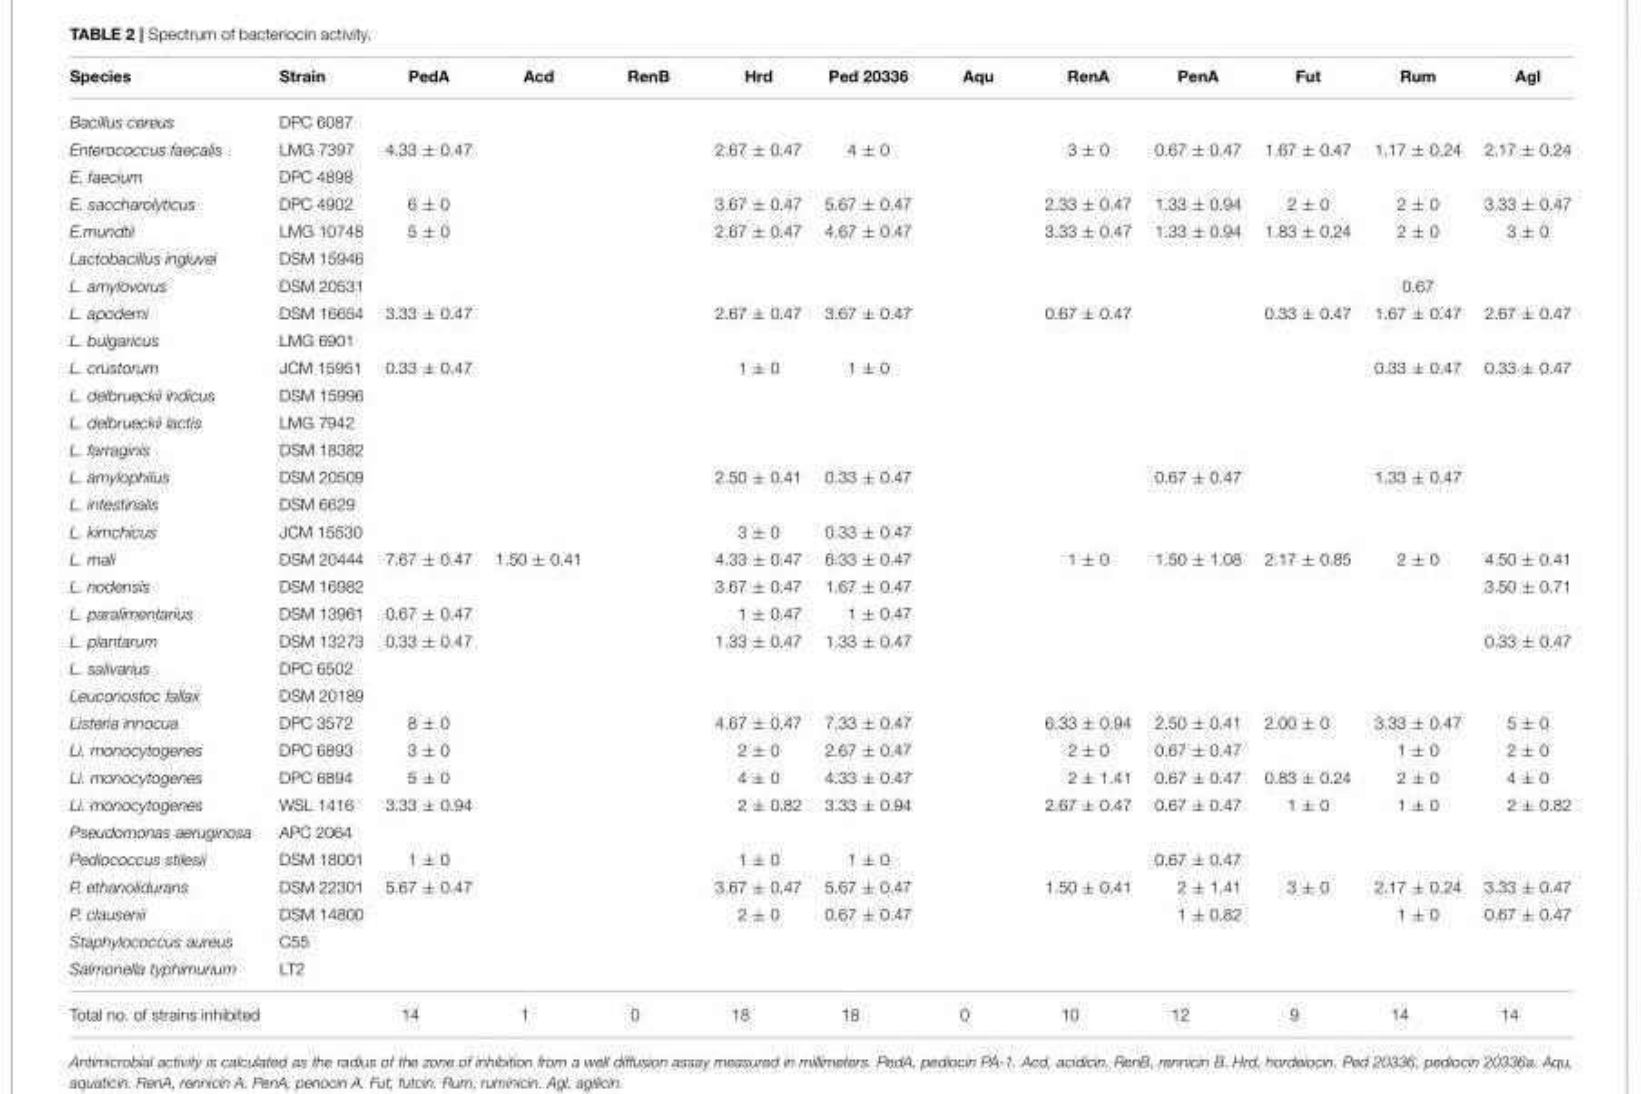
<table><thead><tr><td>Species</td><td>Strain</td><td>PedA</td><td>Acd</td><td>RenB</td><td>Hrd</td><td>Ped 20336</td><td>Aqu</td><td>RenA</td><td>PenA</td><td>Fut</td><td>Rum</td><td>Agl</td></tr></thead><tbody><tr><td>Bacillus cereus</td><td>DPC 6087</td><td></td><td></td><td></td><td></td><td></td><td></td><td></td><td></td><td></td><td></td><td></td></tr><tr><td>Enterococcus faecalis</td><td>LMG 7397</td><td>4.33 ± 0.47</td><td></td><td></td><td>2.67 ± 0.47</td><td>4 ± 0</td><td></td><td>3 ± 0</td><td>0.67 ± 0.47</td><td>1.67 ± 0.47</td><td>1.17 ± 0.24</td><td>2.17 ± 0.24</td></tr><tr><td>E. faecium</td><td>DPC 4898</td><td></td><td></td><td></td><td></td><td></td><td></td><td></td><td></td><td></td><td></td><td></td></tr><tr><td>E. saccharolyticus</td><td>DPC 4902</td><td>6 ± 0</td><td></td><td></td><td>3.67 ± 0.47</td><td>5.67 ± 0.47</td><td></td><td>2.33 ± 0.47</td><td>1.33 ± 0.94</td><td>2 ± 0</td><td>2 ± 0</td><td>3.33 ± 0.47</td></tr><tr><td>E.mundtii</td><td>LMG 10748</td><td>5 ± 0</td><td></td><td></td><td>2.67 ± 0.47</td><td>4.67 ± 0.47</td><td></td><td>3.33 ± 0.47</td><td>1.33 ± 0.94</td><td>1.83 ± 0.24</td><td>2 ± 0</td><td>3 ± 0</td></tr><tr><td>Lactobacillus ingluvei</td><td>DSM 15946</td><td></td><td></td><td></td><td></td><td></td><td></td><td></td><td></td><td></td><td></td><td></td></tr><tr><td>L. amylovorus</td><td>DSM 20531</td><td></td><td></td><td></td><td></td><td></td><td></td><td></td><td></td><td></td><td>0.67</td><td></td></tr><tr><td>L. apodemi</td><td>DSM 16654</td><td>3.33 ± 0.47</td><td></td><td></td><td>2.67 ± 0.47</td><td>3.67 ± 0.47</td><td></td><td>0.67 ± 0.47</td><td></td><td>0.33 ± 0.47</td><td>1.67 ± 0.47</td><td>2.67 ± 0.47</td></tr><tr><td>L. bulgaricus</td><td>LMG 6901</td><td></td><td></td><td></td><td></td><td></td><td></td><td></td><td></td><td></td><td></td><td></td></tr><tr><td>L. crustorum</td><td>JCM 15951</td><td>0.33 ± 0.47</td><td></td><td></td><td>1 ± 0</td><td>1 ± 0</td><td></td><td></td><td></td><td></td><td>0.33 ± 0.47</td><td>0.33 ± 0.47</td></tr><tr><td>L. delbrueckii indicus</td><td>DSM 15996</td><td></td><td></td><td></td><td></td><td></td><td></td><td></td><td></td><td></td><td></td><td></td></tr><tr><td>L. delbrueckii lactis</td><td>LMG 7942</td><td></td><td></td><td></td><td></td><td></td><td></td><td></td><td></td><td></td><td></td><td></td></tr><tr><td>L. farraginis</td><td>DSM 18382</td><td></td><td></td><td></td><td></td><td></td><td></td><td></td><td></td><td></td><td></td><td></td></tr><tr><td>L. amylophilus</td><td>DSM 20509</td><td></td><td></td><td></td><td>2.50 ± 0.41</td><td>0.33 ± 0.47</td><td></td><td></td><td>0.67 ± 0.47</td><td></td><td>1.33 ± 0.47</td><td></td></tr><tr><td>L. intestinalis</td><td>DSM 6629</td><td></td><td></td><td></td><td></td><td></td><td></td><td></td><td></td><td></td><td></td><td></td></tr><tr><td>L. kimchicus</td><td>JCM 15530</td><td></td><td></td><td></td><td>3 ± 0</td><td>0.33 ± 0.47</td><td></td><td></td><td></td><td></td><td></td><td></td></tr><tr><td>L. mali</td><td>DSM 20444</td><td>7.67 ± 0.47</td><td>1.50 ± 0.41</td><td></td><td>4.33 ± 0.47</td><td>6.33 ± 0.47</td><td></td><td>1 ± 0</td><td>1.50 ± 1.08</td><td>2.17 ± 0.85</td><td>2 ± 0</td><td>4.50 ± 0.41</td></tr><tr><td>L. nodensis</td><td>DSM 16982</td><td></td><td></td><td></td><td>3.67 ± 0.47</td><td>1.67 ± 0.47</td><td></td><td></td><td></td><td></td><td></td><td>3.50 ± 0.71</td></tr><tr><td>L. paralimentarius</td><td>DSM 13961</td><td>0.67 ± 0.47</td><td></td><td></td><td>1 ± 0.47</td><td>1 ± 0.47</td><td></td><td></td><td></td><td></td><td></td><td></td></tr><tr><td>L. plantarum</td><td>DSM 13273</td><td>0.33 ± 0.47</td><td></td><td></td><td>1.33 ± 0.47</td><td>1.33 ± 0.47</td><td></td><td></td><td></td><td></td><td></td><td>0.33 ± 0.47</td></tr><tr><td>L. salivarius</td><td>DPC 6502</td><td></td><td></td><td></td><td></td><td></td><td></td><td></td><td></td><td></td><td></td><td></td></tr><tr><td>Leuconostoc fallax</td><td>DSM 20189</td><td></td><td></td><td></td><td></td><td></td><td></td><td></td><td></td><td></td><td></td><td></td></tr><tr><td>Listeria innocua</td><td>DPC 3572</td><td>8 ± 0</td><td></td><td></td><td>4.67 ± 0.47</td><td>7.33 ± 0.47</td><td></td><td>6.33 ± 0.94</td><td>2.50 ± 0.41</td><td>2.00 ± 0</td><td>3.33 ± 0.47</td><td>5 ± 0</td></tr><tr><td>Li. monocytogenes</td><td>DPC 6893</td><td>3 ± 0</td><td></td><td></td><td>2 ± 0</td><td>2.67 ± 0.47</td><td></td><td>2 ± 0</td><td>0.67 ± 0.47</td><td></td><td>1 ± 0</td><td>2 ± 0</td></tr><tr><td>Li. monocytogenes</td><td>DPC 6894</td><td>5 ± 0</td><td></td><td></td><td>4 ± 0</td><td>4.33 ± 0.47</td><td></td><td>2 ± 1.41</td><td>0.67 ± 0.47</td><td>0.83 ± 0.24</td><td>2 ± 0</td><td>4 ± 0</td></tr><tr><td>Li. monocytogenes</td><td>WSL 1416</td><td>3.33 ± 0.94</td><td></td><td></td><td>2 ± 0.82</td><td>3.33 ± 0.94</td><td></td><td>2.67 ± 0.47</td><td>0.67 ± 0.47</td><td>1 ± 0</td><td>1 ± 0</td><td>2 ± 0.82</td></tr><tr><td>Pseudomonas aeruginosa</td><td>APC 2064</td><td></td><td></td><td></td><td></td><td></td><td></td><td></td><td></td><td></td><td></td><td></td></tr><tr><td>Pediococcus stilesii</td><td>DSM 18001</td><td>1 ± 0</td><td></td><td></td><td>1 ± 0</td><td>1 ± 0</td><td></td><td></td><td>0.67 ± 0.47</td><td></td><td></td><td></td></tr><tr><td>P. ethanolidurans</td><td>DSM 22301</td><td>5.67 ± 0.47</td><td></td><td></td><td>3.67 ± 0.47</td><td>5.67 ± 0.47</td><td></td><td>1.50 ± 0.41</td><td>2 ± 1.41</td><td>3 ± 0</td><td>2.17 ± 0.24</td><td>3.33 ± 0.47</td></tr><tr><td>P. clausenii</td><td>DSM 14800</td><td></td><td></td><td></td><td>2 ± 0</td><td>0.67 ± 0.47</td><td></td><td></td><td>1 ± 0.82</td><td></td><td>1 ± 0</td><td>0.67 ± 0.47</td></tr><tr><td>Staphylococcus aureus</td><td>C55</td><td></td><td></td><td></td><td></td><td></td><td></td><td></td><td></td><td></td><td></td><td></td></tr><tr><td>Salmonella typhimurium</td><td>LT2</td><td></td><td></td><td></td><td></td><td></td><td></td><td></td><td></td><td></td><td></td><td></td></tr><tr><td>Total no. of strains inhibited</td><td></td><td>14</td><td>1</td><td>0</td><td>18</td><td>18</td><td>0</td><td>10</td><td>12</td><td>9</td><td>14</td><td>14</td></tr></tbody></table>